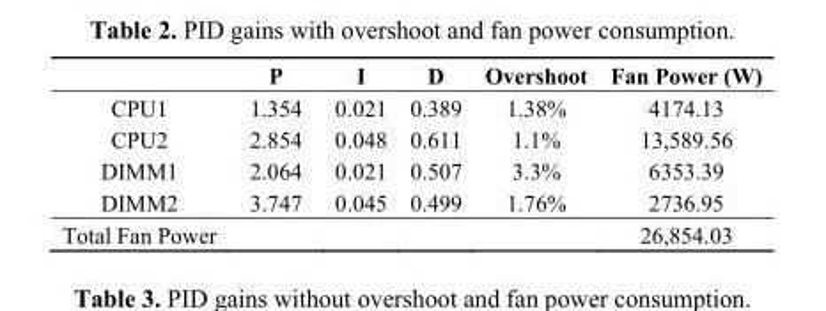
<table><thead><tr><td></td><td>P</td><td>I</td><td>D</td><td>Overshoot</td><td>Fan Power (W)</td></tr></thead><tbody><tr><td>CPU1</td><td>1.354</td><td>0.021</td><td>0.389</td><td>1.38%</td><td>4174.13</td></tr><tr><td>CPU2</td><td>2.854</td><td>0.048</td><td>0.611</td><td>1.1%</td><td>13,589.56</td></tr><tr><td>DIMM1</td><td>2.064</td><td>0.021</td><td>0.507</td><td>3.3%</td><td>6353.39</td></tr><tr><td>DIMM2</td><td>3.747</td><td>0.045</td><td>0.499</td><td>1.76%</td><td>2736.95</td></tr><tr><td>Total Fan Power</td><td></td><td></td><td></td><td></td><td>26,854.03</td></tr></tbody></table>